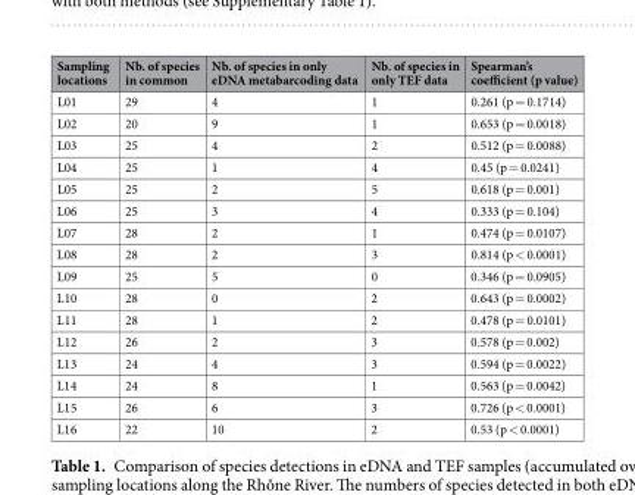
<table><thead><tr><td>Sampling locations</td><td>Nb. of species in common</td><td>Nb. of species in only eDNA metabarcoding data</td><td>Nb. of species in only TEF data</td><td>Spearman’s coefficient (p value)</td></tr></thead><tbody><tr><td>L01</td><td>29</td><td>4</td><td>1</td><td>0.261 (p = 0.1714)</td></tr><tr><td>L02</td><td>20</td><td>9</td><td>1</td><td>0.653 (p = 0.0018)</td></tr><tr><td>L03</td><td>25</td><td>4</td><td>2</td><td>0.512 (p = 0.0088)</td></tr><tr><td>L04</td><td>25</td><td>1</td><td>4</td><td>0.45 (p = 0.0241)</td></tr><tr><td>L05</td><td>25</td><td>2</td><td>5</td><td>0.618 (p = 0.001)</td></tr><tr><td>L06</td><td>25</td><td>3</td><td>4</td><td>0.333 (p = 0.104)</td></tr><tr><td>L07</td><td>28</td><td>2</td><td>1</td><td>0.474 (p = 0.0107)</td></tr><tr><td>L08</td><td>28</td><td>2</td><td>3</td><td>0.814 (p &lt; 0.0001)</td></tr><tr><td>L09</td><td>25</td><td>5</td><td>0</td><td>0.346 (p = 0.0905)</td></tr><tr><td>L10</td><td>28</td><td>0</td><td>2</td><td>0.643 (p = 0.0002)</td></tr><tr><td>L11</td><td>28</td><td>1</td><td>2</td><td>0.478 (p = 0.0101)</td></tr><tr><td>L12</td><td>26</td><td>2</td><td>3</td><td>0.578 (p = 0.002)</td></tr><tr><td>L13</td><td>24</td><td>4</td><td>3</td><td>0.594 (p = 0.0022)</td></tr><tr><td>L14</td><td>24</td><td>8</td><td>1</td><td>0.563 (p = 0.0042)</td></tr><tr><td>L15</td><td>26</td><td>6</td><td>3</td><td>0.726 (p &lt; 0.0001)</td></tr><tr><td>L16</td><td>22</td><td>10</td><td>2</td><td>0.53 (p &lt; 0.0001)</td></tr></tbody></table>